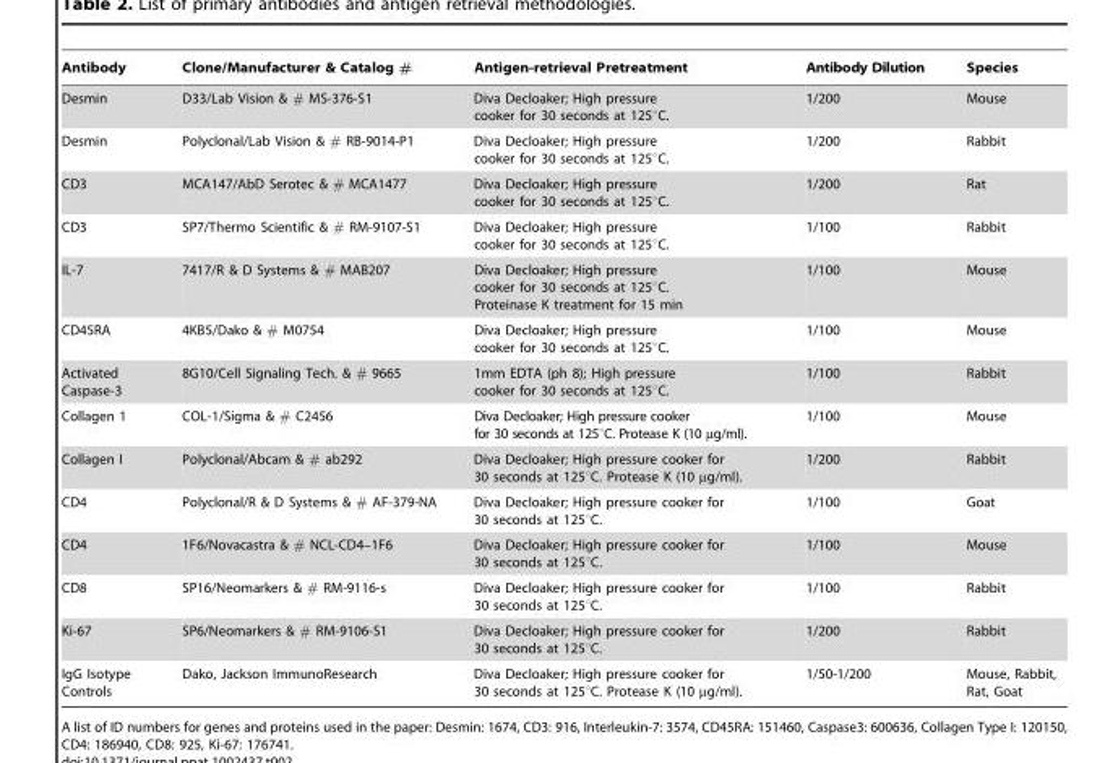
<table><thead><tr><td>Antibody</td><td>Clone/Manufacturer &amp; Catalog #</td><td>Antigen-retrieval Pretreatment</td><td>Antibody Dilution</td><td>Species</td></tr></thead><tbody><tr><td>Desmin</td><td>D33/Lab Vision &amp; # MS-376-S1</td><td>Diva Decloaker; High pressure cooker for 30 seconds at 125°C.</td><td>1/200</td><td>Mouse</td></tr><tr><td>Desmin</td><td>Polyclonal/Lab Vision &amp; # RB-9014-P1</td><td>Diva Decloaker; High pressure cooker for 30 seconds at 125°C.</td><td>1/200</td><td>Rabbit</td></tr><tr><td>CD3</td><td>MCA147/AbD Serotec &amp; # MCA1477</td><td>Diva Decloaker; High pressure cooker for 30 seconds at 125°C.</td><td>1/200</td><td>Rat</td></tr><tr><td>CD3</td><td>SP7/Thermo Scientific &amp; # RM-9107-S1</td><td>Diva Decloaker; High pressure cooker for 30 seconds at 125°C.</td><td>1/100</td><td>Rabbit</td></tr><tr><td>IL-7</td><td>7417/R &amp; D Systems &amp; # MAB207</td><td>Diva Decloaker; High pressure cooker for 30 seconds at 125°C. Proteinase K treatment for 15 min</td><td>1/100</td><td>Mouse</td></tr><tr><td>CD45RA</td><td>4KB5/Dako &amp; # M0754</td><td>Diva Decloaker; High pressure cooker for 30 seconds at 125°C.</td><td>1/100</td><td>Mouse</td></tr><tr><td>Activated Caspase-3</td><td>8G10/Cell Signaling Tech. &amp; # 9665</td><td>1mm EDTA (ph 8); High pressure cooker for 30 seconds at 125°C.</td><td>1/100</td><td>Rabbit</td></tr><tr><td>Collagen 1</td><td>COL-1/Sigma &amp; # C2456</td><td>Diva Decloaker; High pressure cooker for 30 seconds at 125°C. Protease K (10 µg/ml).</td><td>1/100</td><td>Mouse</td></tr><tr><td>Collagen I</td><td>Polyclonal/Abcam &amp; # ab292</td><td>Diva Decloaker; High pressure cooker for 30 seconds at 125°C. Protease K (10 µg/ml).</td><td>1/200</td><td>Rabbit</td></tr><tr><td>CD4</td><td>Polyclonal/R &amp; D Systems &amp; # AF-379-NA</td><td>Diva Decloaker; High pressure cooker for 30 seconds at 125°C.</td><td>1/100</td><td>Goat</td></tr><tr><td>CD4</td><td>1F6/Novacastra &amp; # NCL-CD4–1F6</td><td>Diva Decloaker; High pressure cooker for 30 seconds at 125°C.</td><td>1/100</td><td>Mouse</td></tr><tr><td>CD8</td><td>SP16/Neomarkers &amp; # RM-9116-s</td><td>Diva Decloaker; High pressure cooker for 30 seconds at 125°C.</td><td>1/100</td><td>Rabbit</td></tr><tr><td>Ki-67</td><td>SP6/Neomarkers &amp; # RM-9106-S1</td><td>Diva Decloaker; High pressure cooker for 30 seconds at 125°C.</td><td>1/200</td><td>Rabbit</td></tr><tr><td>IgG Isotype Controls</td><td>Dako, Jackson ImmunoResearch</td><td>Diva Decloaker; High pressure cooker for 30 seconds at 125°C. Protease K (10 µg/ml).</td><td>1/50-1/200</td><td>Mouse, Rabbit, Rat, Goat</td></tr></tbody></table>